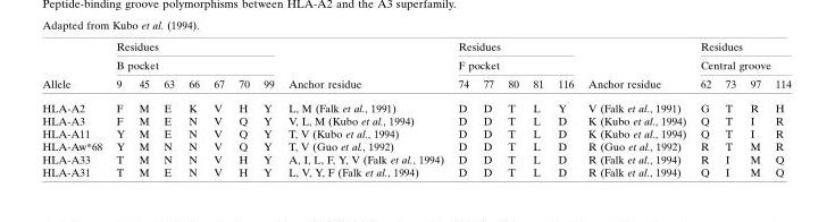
<table><thead><tr><td rowspan="3">Allele</td><td rowspan="2" colspan="7">Residues B pocket</td><td rowspan="3">Anchor residue</td><td rowspan="2" colspan="5">Residues F pocket</td><td rowspan="3">Anchor residue</td><td rowspan="2" colspan="4">Residues Central groove</td></tr><tr></tr><tr><td>9</td><td>45</td><td>63</td><td>66</td><td>67</td><td>70</td><td>99</td><td>74</td><td>77</td><td>80</td><td>81</td><td>116</td><td>62</td><td>73</td><td>97</td><td>114</td></tr></thead><tbody><tr><td>HLA-A2</td><td>F</td><td>M</td><td>E</td><td>K</td><td>V</td><td>H</td><td>Y</td><td>L, M (Falk et al., 1991)</td><td>D</td><td>D</td><td>T</td><td>L</td><td>Y</td><td>V (Falk et al., 1991)</td><td>G</td><td>T</td><td>R</td><td>H</td></tr><tr><td>HLA-A3</td><td>F</td><td>M</td><td>E</td><td>N</td><td>V</td><td>Q</td><td>Y</td><td>V, L, M (Kubo et al., 1994)</td><td>D</td><td>D</td><td>T</td><td>L</td><td>D</td><td>K (Kubo et al., 1994)</td><td>Q</td><td>T</td><td>I</td><td>R</td></tr><tr><td>HLA-A11</td><td>Y</td><td>M</td><td>E</td><td>N</td><td>V</td><td>Q</td><td>Y</td><td>T, V (Kubo et al., 1994)</td><td>D</td><td>D</td><td>T</td><td>L</td><td>D</td><td>K (Kubo et al., 1994)</td><td>Q</td><td>T</td><td>I</td><td>R</td></tr><tr><td>HLA-Aw*68</td><td>Y</td><td>M</td><td>N</td><td>N</td><td>V</td><td>Q</td><td>Y</td><td>T, V (Guo et al., 1992)</td><td>D</td><td>D</td><td>T</td><td>L</td><td>D</td><td>R (Guo et al., 1992)</td><td>R</td><td>T</td><td>M</td><td>R</td></tr><tr><td>HLA-A33</td><td>T</td><td>M</td><td>N</td><td>N</td><td>V</td><td>H</td><td>Y</td><td>A, I, L, F, Y, V (Falk et al., 1994)</td><td>D</td><td>D</td><td>T</td><td>L</td><td>D</td><td>R (Falk et al., 1994)</td><td>R</td><td>I</td><td>M</td><td>Q</td></tr><tr><td>HLA-A31</td><td>T</td><td>M</td><td>E</td><td>N</td><td>V</td><td>H</td><td>Y</td><td>L, V, Y, F (Falk et al., 1994)</td><td>D</td><td>D</td><td>T</td><td>L</td><td>D</td><td>R (Falk et al., 1994)</td><td>Q</td><td>I</td><td>M</td><td>Q</td></tr></tbody></table>